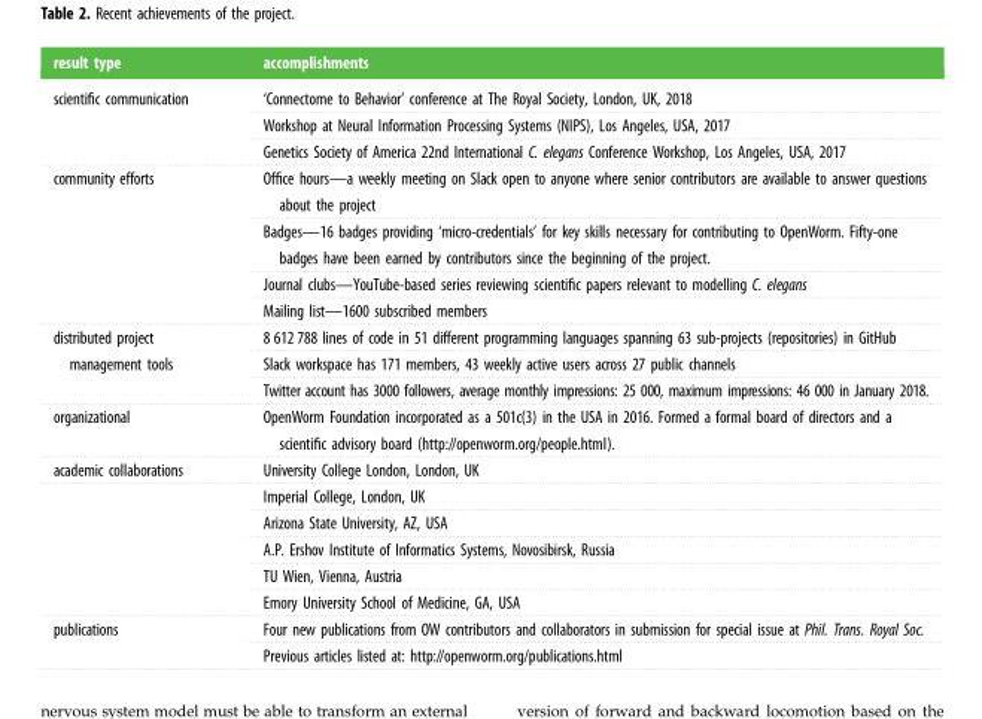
<table><thead><tr><td>result type</td><td>accomplishments</td></tr></thead><tbody><tr><td rowspan="3">scientific communication</td><td>‘Connectome to Behavior’ conference at The Royal Society, London, UK, 2018</td></tr><tr><td>Workshop at Neural Information Processing Systems (NIPS), Los Angeles, USA, 2017</td></tr><tr><td>Genetics Society of America 22nd International C. elegans Conference Workshop, Los Angeles, USA, 2017</td></tr><tr><td rowspan="4">community efforts</td><td>Office hours—a weekly meeting on Slack open to anyone where senior contributors are available to answer questions about the project</td></tr><tr><td>Badges—16 badges providing ‘micro-credentials’ for key skills necessary for contributing to OpenWorm. Fifty-one badges have been earned by contributors since the beginning of the project.</td></tr><tr><td>Journal clubs—YouTube-based series reviewing scientific papers relevant to modelling C. elegans</td></tr><tr><td>Mailing list—1600 subscribed members</td></tr><tr><td rowspan="3">distributed project management tools</td><td>8 612 788 lines of code in 51 different programming languages spanning 63 sub-projects (repositories) in GitHub</td></tr><tr><td>Slack workspace has 171 members, 43 weekly active users across 27 public channels</td></tr><tr><td>Twitter account has 3000 followers, average monthly impressions: 25 000, maximum impressions: 46 000 in January 2018.</td></tr><tr><td>organizational</td><td>OpenWorm Foundation incorporated as a 501c(3) in the USA in 2016. Formed a formal board of directors and a scientific advisory board (http://openworm.org/people.html).</td></tr><tr><td rowspan="6">academic collaborations</td><td>University College London, London, UK</td></tr><tr><td>Imperial College, London, UK</td></tr><tr><td>Arizona State University, AZ, USA</td></tr><tr><td>A.P. Ershov Institute of Informatics Systems, Novosibirsk, Russia</td></tr><tr><td>TU Wien, Vienna, Austria</td></tr><tr><td>Emory University School of Medicine, GA, USA</td></tr><tr><td rowspan="2">publications</td><td>Four new publications from OW contributors and collaborators in submission for special issue at Phil. Trans. Royal Soc.</td></tr><tr><td>Previous articles listed at: http://openworm.org/publications.html</td></tr></tbody></table>